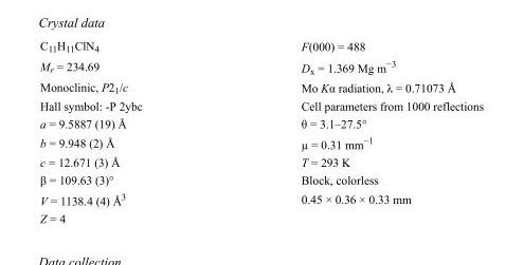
<table><tbody><tr><td>C<sub>11</sub>H<sub>11</sub>ClN<sub>4</sub></td><td>F(000) = 488</td></tr><tr><td>M<sub>r</sub> = 234.69</td><td>D<sub>x</sub> = 1.369 Mg m<sup>−3</sup></td></tr><tr><td>Monoclinic, P2<sub>1</sub>/c</td><td>Mo Kα radiation, λ = 0.71073 Å</td></tr><tr><td>Hall symbol: -P 2ybc</td><td>Cell parameters from 1000 reflections</td></tr><tr><td>a = 9.5887 (19) Å</td><td>θ = 3.1–27.5°</td></tr><tr><td>b = 9.948 (2) Å</td><td>µ = 0.31 mm<sup>−1</sup></td></tr><tr><td>c = 12.671 (3) Å</td><td>T = 293 K</td></tr><tr><td>β = 109.63 (3)°</td><td>Block, colorless</td></tr><tr><td>V = 1138.4 (4) Å<sup>3</sup></td><td>0.45 × 0.36 × 0.33 mm</td></tr><tr><td>Z = 4</td><td></td></tr></tbody></table>